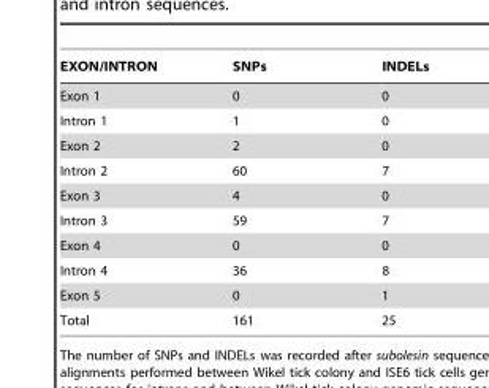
<table><thead><tr><td>EXON/INTRON</td><td>SNPs</td><td>INDELs</td></tr></thead><tbody><tr><td>Exon 1</td><td>0</td><td>0</td></tr><tr><td>Intron 1</td><td>1</td><td>0</td></tr><tr><td>Exon 2</td><td>2</td><td>0</td></tr><tr><td>Intron 2</td><td>60</td><td>7</td></tr><tr><td>Exon 3</td><td>4</td><td>0</td></tr><tr><td>Intron 3</td><td>59</td><td>7</td></tr><tr><td>Exon 4</td><td>0</td><td>0</td></tr><tr><td>Intron 4</td><td>36</td><td>8</td></tr><tr><td>Exon 5</td><td>0</td><td>1</td></tr><tr><td>Total</td><td>161</td><td>25</td></tr></tbody></table>